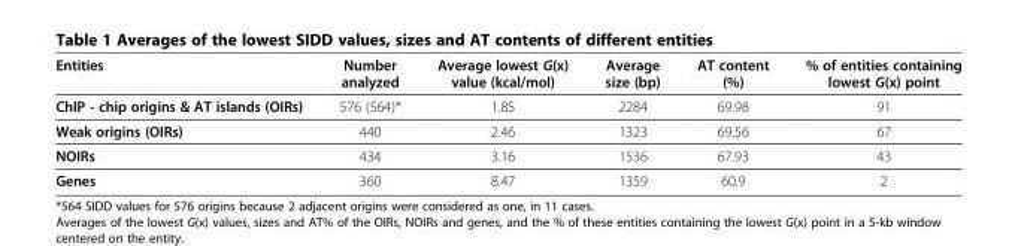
<table><thead><tr><td>Entities</td><td>Number analyzed</td><td>Average lowest G(x) value (kcal/mol)</td><td>Average size (bp)</td><td>AT content (%)</td><td>% of entities containing lowest G(x) point</td></tr></thead><tbody><tr><td>ChIP - chip origins &amp; AT islands (OIRs)</td><td>576 (564)*</td><td>1.85</td><td>2284</td><td>69.98</td><td>91</td></tr><tr><td>Weak origins (OIRs)</td><td>440</td><td>2.46</td><td>1323</td><td>69.56</td><td>67</td></tr><tr><td>NOIRs</td><td>434</td><td>3.16</td><td>1536</td><td>67.93</td><td>43</td></tr><tr><td>Genes</td><td>360</td><td>8.47</td><td>1359</td><td>60.9</td><td>2</td></tr></tbody></table>